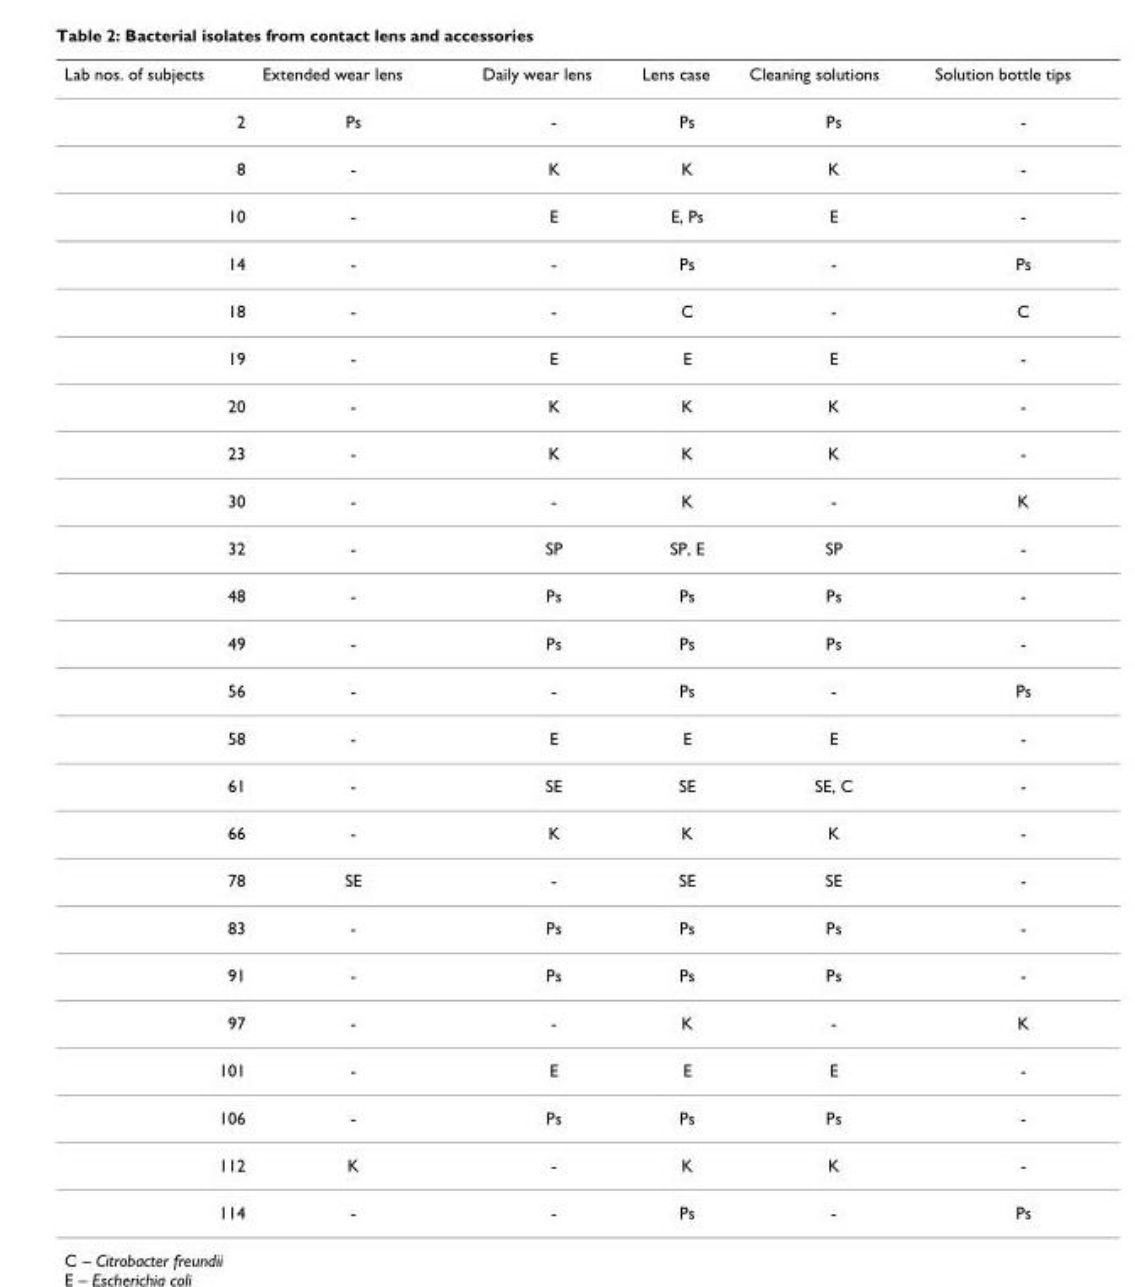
<table><thead><tr><td>Lab nos. of subjects</td><td>Extended wear lens</td><td>Daily wear lens</td><td>Lens case</td><td>Cleaning solutions</td><td>Solution bottle tips</td></tr></thead><tbody><tr><td>2</td><td>Ps</td><td>-</td><td>Ps</td><td>Ps</td><td>-</td></tr><tr><td>8</td><td>-</td><td>K</td><td>K</td><td>K</td><td>-</td></tr><tr><td>10</td><td>-</td><td>E</td><td>E, Ps</td><td>E</td><td>-</td></tr><tr><td>14</td><td>-</td><td>-</td><td>Ps</td><td>-</td><td>Ps</td></tr><tr><td>18</td><td>-</td><td>-</td><td>C</td><td>-</td><td>C</td></tr><tr><td>19</td><td>-</td><td>E</td><td>E</td><td>E</td><td>-</td></tr><tr><td>20</td><td>-</td><td>K</td><td>K</td><td>K</td><td>-</td></tr><tr><td>23</td><td>-</td><td>K</td><td>K</td><td>K</td><td>-</td></tr><tr><td>30</td><td>-</td><td>-</td><td>K</td><td>-</td><td>K</td></tr><tr><td>32</td><td>-</td><td>SP</td><td>SP, E</td><td>SP</td><td>-</td></tr><tr><td>48</td><td>-</td><td>Ps</td><td>Ps</td><td>Ps</td><td>-</td></tr><tr><td>49</td><td>-</td><td>Ps</td><td>Ps</td><td>Ps</td><td>-</td></tr><tr><td>56</td><td>-</td><td>-</td><td>Ps</td><td>-</td><td>Ps</td></tr><tr><td>58</td><td>-</td><td>E</td><td>E</td><td>E</td><td>-</td></tr><tr><td>61</td><td>-</td><td>SE</td><td>SE</td><td>SE, C</td><td>-</td></tr><tr><td>66</td><td>-</td><td>K</td><td>K</td><td>K</td><td>-</td></tr><tr><td>78</td><td>SE</td><td>-</td><td>SE</td><td>SE</td><td>-</td></tr><tr><td>83</td><td>-</td><td>Ps</td><td>Ps</td><td>Ps</td><td>-</td></tr><tr><td>91</td><td>-</td><td>Ps</td><td>Ps</td><td>Ps</td><td>-</td></tr><tr><td>97</td><td>-</td><td>-</td><td>K</td><td>-</td><td>K</td></tr><tr><td>101</td><td>-</td><td>E</td><td>E</td><td>E</td><td>-</td></tr><tr><td>106</td><td>-</td><td>Ps</td><td>Ps</td><td>Ps</td><td>-</td></tr><tr><td>112</td><td>K</td><td>-</td><td>K</td><td>K</td><td>-</td></tr><tr><td>114</td><td>-</td><td>-</td><td>Ps</td><td>-</td><td>Ps</td></tr></tbody></table>